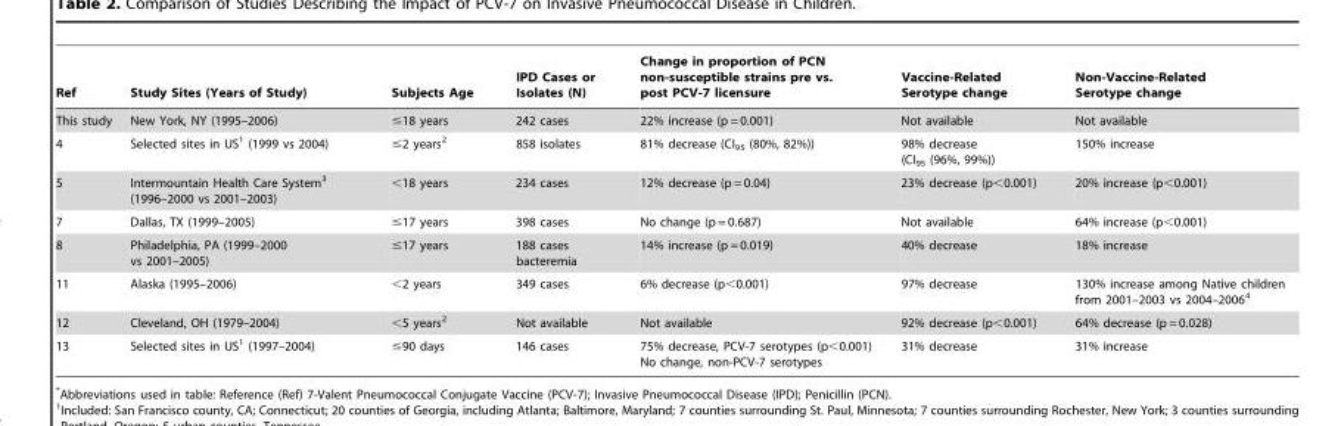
<table><thead><tr><td>Ref</td><td>Study Sites (Years of Study)</td><td>Subjects Age</td><td>IPD Cases or Isolates (N)</td><td>Change in proportion of PCN non-susceptible strains pre vs. post PCV-7 licensure</td><td>Vaccine-Related Serotype change</td><td>Non-Vaccine-Related Serotype change</td></tr></thead><tbody><tr><td>This study</td><td>New York, NY (1995–2006)</td><td>≤18 years</td><td>242 cases</td><td>22% increase (p = 0.001)</td><td>Not available</td><td>Not available</td></tr><tr><td>4</td><td>Selected sites in US<sup>1</sup> (1999 vs 2004)</td><td>≤2 years<sup>2</sup></td><td>858 isolates</td><td>81% decrease (CI<sub>95</sub> (80%, 82%))</td><td>98% decrease (CI<sub>95</sub> (96%, 99%))</td><td>150% increase</td></tr><tr><td>5</td><td>Intermountain Health Care System<sup>3</sup> (1996–2000 vs 2001–2003)</td><td>&lt;18 years</td><td>234 cases</td><td>12% decrease (p = 0.04)</td><td>23% decrease (p&lt;0.001)</td><td>20% increase (p&lt;0.001)</td></tr><tr><td>7</td><td>Dallas, TX (1999–2005)</td><td>≤17 years</td><td>398 cases</td><td>No change (p = 0.687)</td><td>Not available</td><td>64% increase (p&lt;0.001)</td></tr><tr><td>8</td><td>Philadelphia, PA (1999–2000 vs 2001–2005)</td><td>≤17 years</td><td>188 cases bacteremia</td><td>14% increase (p = 0.019)</td><td>40% decrease</td><td>18% increase</td></tr><tr><td>11</td><td>Alaska (1995–2006)</td><td>&lt;2 years</td><td>349 cases</td><td>6% decrease (p&lt;0.001)</td><td>97% decrease</td><td>130% increase among Native children from 2001–2003 vs 2004–2006<sup>4</sup></td></tr><tr><td>12</td><td>Cleveland, OH (1979–2004)</td><td>&lt;5 years<sup>2</sup></td><td>Not available</td><td>Not available</td><td>92% decrease (p&lt;0.001)</td><td>64% decrease (p = 0.028)</td></tr><tr><td>13</td><td>Selected sites in US<sup>1</sup> (1997–2004)</td><td>≤90 days</td><td>146 cases</td><td>75% decrease, PCV-7 serotypes (p&lt;0.001) No change, non-PCV-7 serotypes</td><td>31% decrease</td><td>31% increase</td></tr></tbody></table>